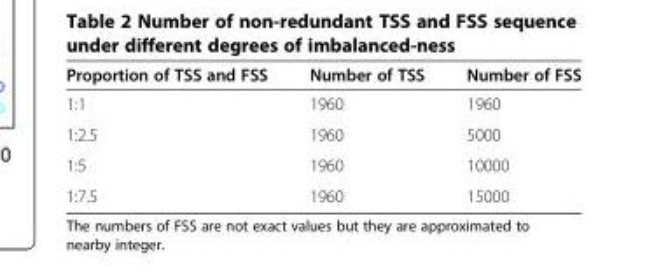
<table><thead><tr><td>Proportion of TSS and FSS</td><td>Number of TSS</td><td>Number of FSS</td></tr></thead><tbody><tr><td>1:1</td><td>1960</td><td>1960</td></tr><tr><td>1:2.5</td><td>1960</td><td>5000</td></tr><tr><td>1:5</td><td>1960</td><td>10000</td></tr><tr><td>1:7.5</td><td>1960</td><td>15000</td></tr></tbody></table>